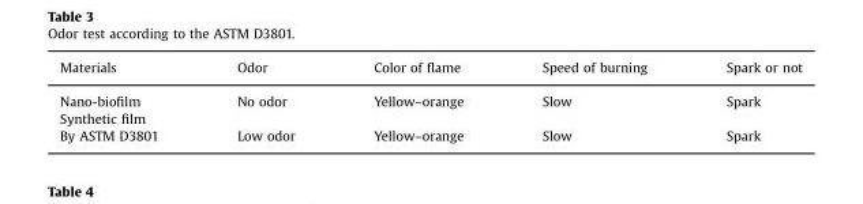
<table><thead><tr><td>Materials</td><td>Odor</td><td>Color of flame</td><td>Speed of burning</td><td>Spark or not</td></tr></thead><tbody><tr><td>Nano-biofilm</td><td>No odor</td><td>Yellow–orange</td><td>Slow</td><td>Spark</td></tr><tr><td colspan="5">Synthetic film</td></tr><tr><td>By ASTM D3801</td><td>Low odor</td><td>Yellow–orange</td><td>Slow</td><td>Spark</td></tr></tbody></table>